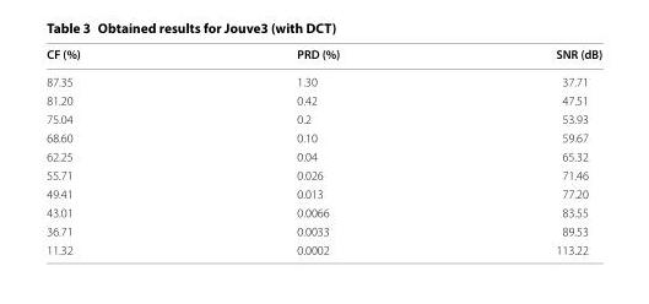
<table><thead><tr><td>CF (%)</td><td>PRD (%)</td><td>SNR (dB)</td></tr></thead><tbody><tr><td>87.35</td><td>1.30</td><td>37.71</td></tr><tr><td>81.20</td><td>0.42</td><td>47.51</td></tr><tr><td>75.04</td><td>0.2</td><td>53.93</td></tr><tr><td>68.60</td><td>0.10</td><td>59.67</td></tr><tr><td>62.25</td><td>0.04</td><td>65.32</td></tr><tr><td>55.71</td><td>0.026</td><td>71.46</td></tr><tr><td>49.41</td><td>0.013</td><td>77.20</td></tr><tr><td>43.01</td><td>0.0066</td><td>83.55</td></tr><tr><td>36.71</td><td>0.0033</td><td>89.53</td></tr><tr><td>11.32</td><td>0.0002</td><td>113.22</td></tr></tbody></table>